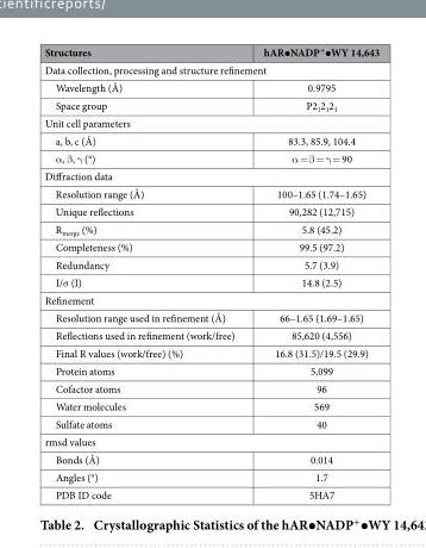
<table><thead><tr><td>Structures</td><td>hAR•NADP<sup>+</sup>•WY 14,643</td></tr></thead><tbody><tr><td colspan="2">Data collection, processing and structure refinement</td></tr><tr><td>Wavelength (Å)</td><td>0.9795</td></tr><tr><td>Space group</td><td>P2<sub>1</sub>2<sub>1</sub>2<sub>1</sub></td></tr><tr><td colspan="2">Unit cell parameters</td></tr><tr><td>a, b, c (Å)</td><td>83.3, 85.9, 104.4</td></tr><tr><td>α , β , γ (°)</td><td>α = β = γ = 90</td></tr><tr><td colspan="2">Diffraction data</td></tr><tr><td>Resolution range (Å)</td><td>100–1.65 (1.74–1.65)</td></tr><tr><td>Unique reflections</td><td>90,282 (12,715)</td></tr><tr><td>R<sub>merge</sub> (%)</td><td>5.8 (45.2)</td></tr><tr><td>Completeness (%)</td><td>99.5 (97.2)</td></tr><tr><td>Redundancy</td><td>5.7 (3.9)</td></tr><tr><td>I/σ (I)</td><td>14.8 (2.5)</td></tr><tr><td colspan="2">Refinement</td></tr><tr><td>Resolution range used in refinement (Å)</td><td>66–1.65 (1.69–1.65)</td></tr><tr><td>Reflections used in refinement (work/free)</td><td>85,620 (4,556)</td></tr><tr><td>Final R values (work/free) (%)</td><td>16.8 (31.5)/19.5 (29.9)</td></tr><tr><td>Protein atoms</td><td>5,099</td></tr><tr><td>Cofactor atoms</td><td>96</td></tr><tr><td>Water molecules</td><td>569</td></tr><tr><td>Sulfate atoms</td><td>40</td></tr><tr><td colspan="2">rmsd values</td></tr><tr><td>Bonds (Å)</td><td>0.014</td></tr><tr><td>Angles (°)</td><td>1.7</td></tr><tr><td>PDB ID code</td><td>5HA7</td></tr></tbody></table>